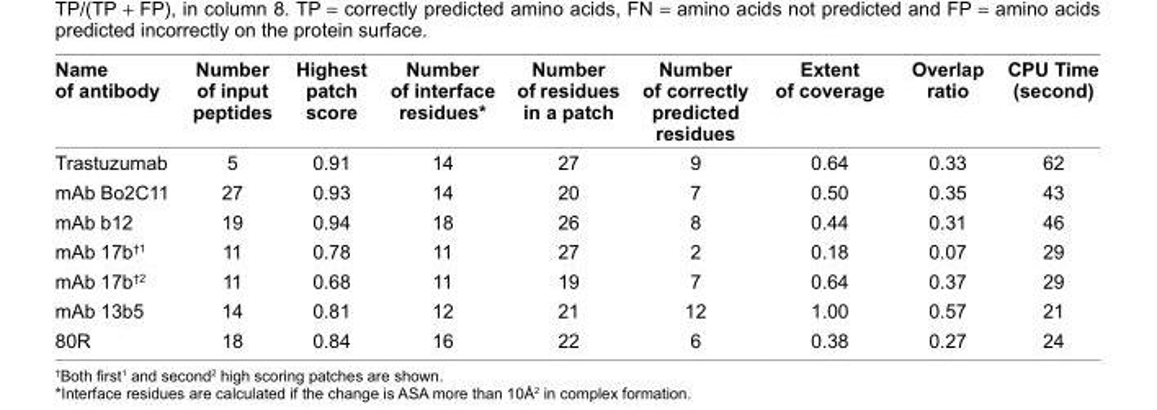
<table><thead><tr><td>name of antibody</td><td>number of input peptides</td><td>Highest patch score</td><td>number of interface residues*</td><td>number of residues in a patch</td><td>number of correctly predicted residues</td><td>extent of coverage</td><td>Overlap ratio</td><td>cpU Time (second)</td></tr></thead><tbody><tr><td>Trastuzumab</td><td>5</td><td>0.91</td><td>14</td><td>27</td><td>9</td><td>0.64</td><td>0.33</td><td>62</td></tr><tr><td>mAb Bo2C11</td><td>27</td><td>0.93</td><td>14</td><td>20</td><td>7</td><td>0.50</td><td>0.35</td><td>43</td></tr><tr><td>mAb b12</td><td>19</td><td>0.94</td><td>18</td><td>26</td><td>8</td><td>0.44</td><td>0.31</td><td>46</td></tr><tr><td>mAb 17b<sup>†1</sup></td><td>11</td><td>0.78</td><td>11</td><td>27</td><td>2</td><td>0.18</td><td>0.07</td><td>29</td></tr><tr><td>mAb 17b<sup>†2</sup></td><td>11</td><td>0.68</td><td>11</td><td>19</td><td>7</td><td>0.64</td><td>0.37</td><td>29</td></tr><tr><td>mAb 13b5</td><td>14</td><td>0.81</td><td>12</td><td>21</td><td>12</td><td>1.00</td><td>0.57</td><td>21</td></tr><tr><td>80r</td><td>18</td><td>0.84</td><td>16</td><td>22</td><td>6</td><td>0.38</td><td>0.27</td><td>24</td></tr></tbody></table>